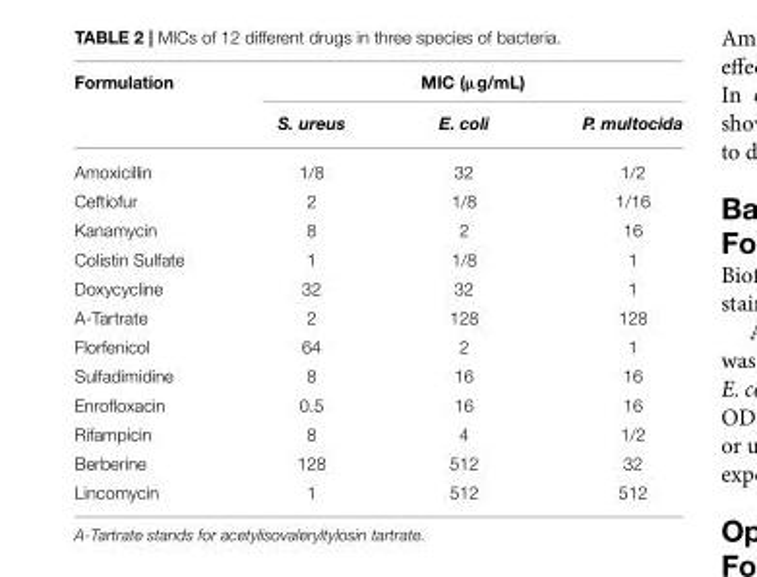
<table><thead><tr><td rowspan="2">Formulation</td><td colspan="3">MIC (µg/mL)</td></tr><tr><td>S. ureus</td><td>E. coli</td><td>P. multocida</td></tr></thead><tbody><tr><td>Amoxicillin</td><td>1/8</td><td>32</td><td>1/2</td></tr><tr><td>Ceftiofur</td><td>2</td><td>1/8</td><td>1/16</td></tr><tr><td>Kanamycin</td><td>8</td><td>2</td><td>16</td></tr><tr><td>Colistin Sulfate</td><td>1</td><td>1/8</td><td>1</td></tr><tr><td>Doxycycline</td><td>32</td><td>32</td><td>1</td></tr><tr><td>A-Tartrate</td><td>2</td><td>128</td><td>128</td></tr><tr><td>Florfenicol</td><td>64</td><td>2</td><td>1</td></tr><tr><td>Sulfadimidine</td><td>8</td><td>16</td><td>16</td></tr><tr><td>Enrofloxacin</td><td>0.5</td><td>16</td><td>16</td></tr><tr><td>Rifampicin</td><td>8</td><td>4</td><td>1/2</td></tr><tr><td>Berberine</td><td>128</td><td>512</td><td>32</td></tr><tr><td>Lincomycin</td><td>1</td><td>512</td><td>512</td></tr></tbody></table>